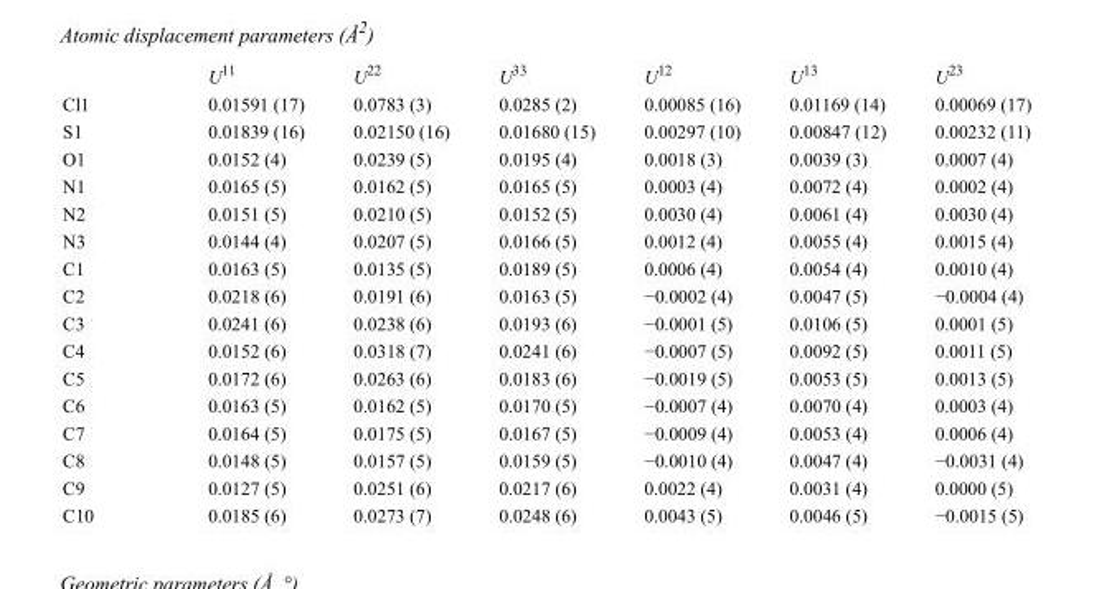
<table><thead><tr><td></td><td>U<sup>11</sup></td><td>U<sup>22</sup></td><td>U<sup>33</sup></td><td>U<sup>12</sup></td><td>U<sup>13</sup></td><td>U<sup>23</sup></td></tr></thead><tbody><tr><td>Cl1</td><td>0.01591 (17)</td><td>0.0783 (3)</td><td>0.0285 (2)</td><td>0.00085 (16)</td><td>0.01169 (14)</td><td>0.00069 (17)</td></tr><tr><td>S1</td><td>0.01839 (16)</td><td>0.02150 (16)</td><td>0.01680 (15)</td><td>0.00297 (10)</td><td>0.00847 (12)</td><td>0.00232 (11)</td></tr><tr><td>O1</td><td>0.0152 (4)</td><td>0.0239 (5)</td><td>0.0195 (4)</td><td>0.0018 (3)</td><td>0.0039 (3)</td><td>0.0007 (4)</td></tr><tr><td>N1</td><td>0.0165 (5)</td><td>0.0162 (5)</td><td>0.0165 (5)</td><td>0.0003 (4)</td><td>0.0072 (4)</td><td>0.0002 (4)</td></tr><tr><td>N2</td><td>0.0151 (5)</td><td>0.0210 (5)</td><td>0.0152 (5)</td><td>0.0030 (4)</td><td>0.0061 (4)</td><td>0.0030 (4)</td></tr><tr><td>N3</td><td>0.0144 (4)</td><td>0.0207 (5)</td><td>0.0166 (5)</td><td>0.0012 (4)</td><td>0.0055 (4)</td><td>0.0015 (4)</td></tr><tr><td>C1</td><td>0.0163 (5)</td><td>0.0135 (5)</td><td>0.0189 (5)</td><td>0.0006 (4)</td><td>0.0054 (4)</td><td>0.0010 (4)</td></tr><tr><td>C2</td><td>0.0218 (6)</td><td>0.0191 (6)</td><td>0.0163 (5)</td><td>−0.0002 (4)</td><td>0.0047 (5)</td><td>−0.0004 (4)</td></tr><tr><td>C3</td><td>0.0241 (6)</td><td>0.0238 (6)</td><td>0.0193 (6)</td><td>−0.0001 (5)</td><td>0.0106 (5)</td><td>0.0001 (5)</td></tr><tr><td>C4</td><td>0.0152 (6)</td><td>0.0318 (7)</td><td>0.0241 (6)</td><td>−0.0007 (5)</td><td>0.0092 (5)</td><td>0.0011 (5)</td></tr><tr><td>C5</td><td>0.0172 (6)</td><td>0.0263 (6)</td><td>0.0183 (6)</td><td>−0.0019 (5)</td><td>0.0053 (5)</td><td>0.0013 (5)</td></tr><tr><td>C6</td><td>0.0163 (5)</td><td>0.0162 (5)</td><td>0.0170 (5)</td><td>−0.0007 (4)</td><td>0.0070 (4)</td><td>0.0003 (4)</td></tr><tr><td>C7</td><td>0.0164 (5)</td><td>0.0175 (5)</td><td>0.0167 (5)</td><td>−0.0009 (4)</td><td>0.0053 (4)</td><td>0.0006 (4)</td></tr><tr><td>C8</td><td>0.0148 (5)</td><td>0.0157 (5)</td><td>0.0159 (5)</td><td>−0.0010 (4)</td><td>0.0047 (4)</td><td>−0.0031 (4)</td></tr><tr><td>C9</td><td>0.0127 (5)</td><td>0.0251 (6)</td><td>0.0217 (6)</td><td>0.0022 (4)</td><td>0.0031 (4)</td><td>0.0000 (5)</td></tr><tr><td>C10</td><td>0.0185 (6)</td><td>0.0273 (7)</td><td>0.0248 (6)</td><td>0.0043 (5)</td><td>0.0046 (5)</td><td>−0.0015 (5)</td></tr></tbody></table>